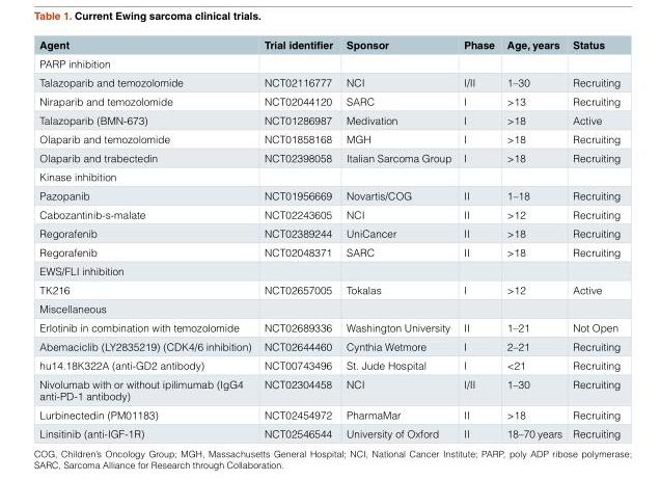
<table><thead><tr><td>Agent</td><td>Trial identifier</td><td>Sponsor</td><td>Phase</td><td>Age, years</td><td>Status</td></tr></thead><tbody><tr><td colspan="6">PARP inhibition</td></tr><tr><td>Talazoparib and temozolomide</td><td>NCT02116777</td><td>NCI</td><td>I/II</td><td>1–30</td><td>Recruiting</td></tr><tr><td>Niraparib and temozolomide</td><td>NCT02044120</td><td>SARC</td><td>I</td><td>&gt;13</td><td>Recruiting</td></tr><tr><td>Talazoparib (BMN-673)</td><td>NCT01286987</td><td>Medivation</td><td>I</td><td>&gt;18</td><td>Active</td></tr><tr><td>Olaparib and temozolomide</td><td>NCT01858168</td><td>MGH</td><td>I</td><td>&gt;18</td><td>Recruiting</td></tr><tr><td>Olaparib and trabectedin</td><td>NCT02398058</td><td>Italian Sarcoma Group</td><td>I</td><td>&gt;18</td><td>Recruiting</td></tr><tr><td colspan="6">Kinase inhibition</td></tr><tr><td>Pazopanib</td><td>NCT01956669</td><td>Novartis/COG</td><td>II</td><td>1–18</td><td>Recruiting</td></tr><tr><td>Cabozantinib-s-malate</td><td>NCT02243605</td><td>NCI</td><td>II</td><td>&gt;12</td><td>Recruiting</td></tr><tr><td>Regorafenib</td><td>NCT02389244</td><td>UniCancer</td><td>II</td><td>&gt;18</td><td>Recruiting</td></tr><tr><td>Regorafenib</td><td>NCT02048371</td><td>SARC</td><td>II</td><td>&gt;18</td><td>Recruiting</td></tr><tr><td colspan="6">EWS/FLI inhibition</td></tr><tr><td>TK216</td><td>NCT02657005</td><td>Tokalas</td><td>I</td><td>&gt;12</td><td>Active</td></tr><tr><td colspan="6">Miscellaneous</td></tr><tr><td>Erlotinib in combination with temozolomide</td><td>NCT02689336</td><td>Washington University</td><td>II</td><td>1–21</td><td>Not Open</td></tr><tr><td>Abemaciclib (LY2835219) (CDK4/6 inhibition)</td><td>NCT02644460</td><td>Cynthia Wetmore</td><td>I</td><td>2–21</td><td>Recruiting</td></tr><tr><td>hu14.18K322A (anti-GD2 antibody)</td><td>NCT00743496</td><td>St. Jude Hospital</td><td>I</td><td>&lt;21</td><td>Recruiting</td></tr><tr><td>Nivolumab with or without ipilimumab (IgG4 anti-PD-1 antibody)</td><td>NCT02304458</td><td>NCI</td><td>I/II</td><td>1–30</td><td>Recruiting</td></tr><tr><td>Lurbinectedin (PM01183)</td><td>NCT02454972</td><td>PharmaMar</td><td>II</td><td>&gt;18</td><td>Recruiting</td></tr><tr><td>Linsitinib (anti-IGF-1R)</td><td>NCT02546544</td><td>University of Oxford</td><td>II</td><td>18–70 years</td><td>Recruiting</td></tr></tbody></table>